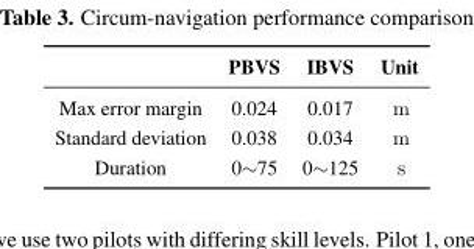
<table><thead><tr><td></td><td>PBVS</td><td>IBVS</td><td>Unit</td></tr></thead><tbody><tr><td>Max error margin</td><td>0.024</td><td>0.017</td><td>m</td></tr><tr><td>Standard deviation</td><td>0.038</td><td>0.034</td><td>m</td></tr><tr><td>Duration</td><td>0∼75</td><td>0∼125</td><td>s</td></tr></tbody></table>